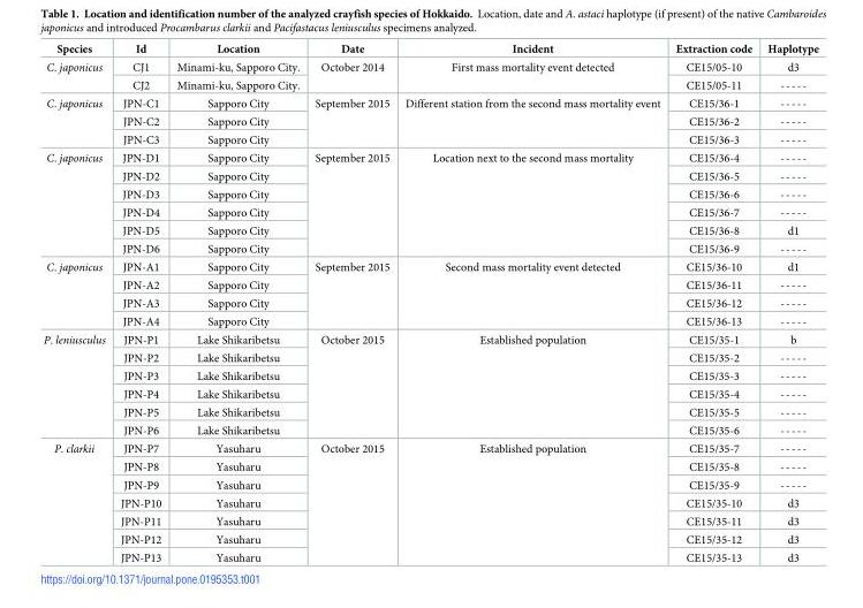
<table><thead><tr><td>Species</td><td>Id</td><td>Location</td><td>Date</td><td>Incident</td><td>Extraction code</td><td>Haplotype</td></tr></thead><tbody><tr><td rowspan="2">C. japonicus</td><td>CJ1</td><td>Minami-ku, Sapporo City.</td><td rowspan="2">October 2014</td><td rowspan="2">First mass mortality event detected</td><td>CE15/05-10</td><td>d3</td></tr><tr><td>CJ2</td><td>Minami-ku, Sapporo City.</td><td>CE15/05-11</td><td>-----</td></tr><tr><td rowspan="3">C. japonicus</td><td>JPN-C1</td><td>Sapporo City</td><td rowspan="3">September 2015</td><td rowspan="3">Different station from the second mass mortality event</td><td>CE15/36-1</td><td>-----</td></tr><tr><td>JPN-C2</td><td>Sapporo City</td><td>CE15/36-2</td><td>-----</td></tr><tr><td>JPN-C3</td><td>Sapporo City</td><td>CE15/36-3</td><td>-----</td></tr><tr><td rowspan="6">C. japonicus</td><td>JPN-D1</td><td>Sapporo City</td><td rowspan="6">September 2015</td><td rowspan="6">Location next to the second mass mortality</td><td>CE15/36-4</td><td>-----</td></tr><tr><td>JPN-D2</td><td>Sapporo City</td><td>CE15/36-5</td><td>-----</td></tr><tr><td>JPN-D3</td><td>Sapporo City</td><td>CE15/36-6</td><td>-----</td></tr><tr><td>JPN-D4</td><td>Sapporo City</td><td>CE15/36-7</td><td>-----</td></tr><tr><td>JPN-D5</td><td>Sapporo City</td><td>CE15/36-8</td><td>d1</td></tr><tr><td>JPN-D6</td><td>Sapporo City</td><td>CE15/36-9</td><td>-----</td></tr><tr><td rowspan="4">C. japonicus</td><td>JPN-A1</td><td>Sapporo City</td><td rowspan="4">September 2015</td><td rowspan="4">Second mass mortality event detected</td><td>CE15/36-10</td><td>d1</td></tr><tr><td>JPN-A2</td><td>Sapporo City</td><td>CE15/36-11</td><td>-----</td></tr><tr><td>JPN-A3</td><td>Sapporo City</td><td>CE15/36-12</td><td>-----</td></tr><tr><td>JPN-A4</td><td>Sapporo City</td><td>CE15/36-13</td><td>-----</td></tr><tr><td rowspan="6">P. leniusculus</td><td>JPN-P1</td><td>Lake Shikaribetsu</td><td rowspan="6">October 2015</td><td rowspan="6">Established population</td><td>CE15/35-1</td><td>b</td></tr><tr><td>JPN-P2</td><td>Lake Shikaribetsu</td><td>CE15/35-2</td><td>-----</td></tr><tr><td>JPN-P3</td><td>Lake Shikaribetsu</td><td>CE15/35-3</td><td>-----</td></tr><tr><td>JPN-P4</td><td>Lake Shikaribetsu</td><td>CE15/35-4</td><td>-----</td></tr><tr><td>JPN-P5</td><td>Lake Shikaribetsu</td><td>CE15/35-5</td><td>-----</td></tr><tr><td>JPN-P6</td><td>Lake Shikaribetsu</td><td>CE15/35-6</td><td>-----</td></tr><tr><td rowspan="7">P. clarkii</td><td>JPN-P7</td><td>Yasuharu</td><td rowspan="7">October 2015</td><td rowspan="7">Established population</td><td>CE15/35-7</td><td>-----</td></tr><tr><td>JPN-P8</td><td>Yasuharu</td><td>CE15/35-8</td><td>-----</td></tr><tr><td>JPN-P9</td><td>Yasuharu</td><td>CE15/35-9</td><td>-----</td></tr><tr><td>JPN-P10</td><td>Yasuharu</td><td>CE15/35-10</td><td>d3</td></tr><tr><td>JPN-P11</td><td>Yasuharu</td><td>CE15/35-11</td><td>d3</td></tr><tr><td>JPN-P12</td><td>Yasuharu</td><td>CE15/35-12</td><td>d3</td></tr><tr><td>JPN-P13</td><td>Yasuharu</td><td>CE15/35-13</td><td>d3</td></tr></tbody></table>